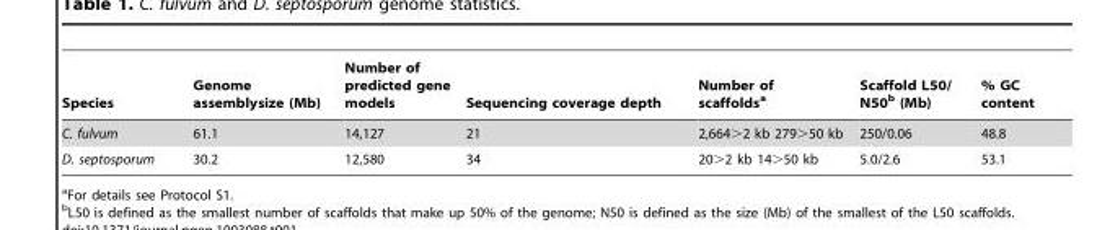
<table><thead><tr><td>Species</td><td>Genome assemblysize (Mb)</td><td>Number of predicted gene models</td><td>Sequencing coverage depth</td><td>Number of scaffolds<sup>a</sup></td><td>Scaffold L50/ N50<sup>b</sup> (Mb)</td><td>% GC content</td></tr></thead><tbody><tr><td>C. fulvum</td><td>61.1</td><td>14,127</td><td>21</td><td>2,664&gt;2 kb 279&gt;50 kb</td><td>250/0.06</td><td>48.8</td></tr><tr><td>D. septosporum</td><td>30.2</td><td>12,580</td><td>34</td><td>20&gt;2 kb 14&gt;50 kb</td><td>5.0/2.6</td><td>53.1</td></tr></tbody></table>